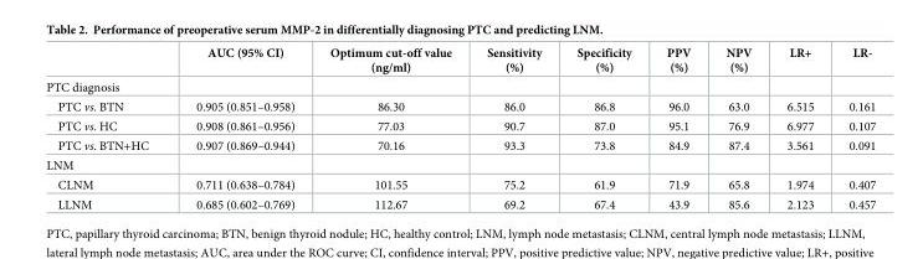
<table><thead><tr><td></td><td>AUC (95% CI)</td><td>Optimum cut-off value (ng/ml)</td><td>Sensitivity (%)</td><td>Specificity (%)</td><td>PPV (%)</td><td>NPV (%)</td><td>LR+</td><td>LR-</td></tr></thead><tbody><tr><td colspan="9">PTC diagnosis</td></tr><tr><td>PTC vs. BTN</td><td>0.905 (0.851–0.958)</td><td>86.30</td><td>86.0</td><td>86.8</td><td>96.0</td><td>63.0</td><td>6.515</td><td>0.161</td></tr><tr><td>PTC vs. HC</td><td>0.908 (0.861–0.956)</td><td>77.03</td><td>90.7</td><td>87.0</td><td>95.1</td><td>76.9</td><td>6.977</td><td>0.107</td></tr><tr><td>PTC vs. BTN+HC</td><td>0.907 (0.869–0.944)</td><td>70.16</td><td>93.3</td><td>73.8</td><td>84.9</td><td>87.4</td><td>3.561</td><td>0.091</td></tr><tr><td colspan="9">LNM</td></tr><tr><td>CLNM</td><td>0.711 (0.638–0.784)</td><td>101.55</td><td>75.2</td><td>61.9</td><td>71.9</td><td>65.8</td><td>1.974</td><td>0.407</td></tr><tr><td>LLNM</td><td>0.685 (0.602–0.769)</td><td>112.67</td><td>69.2</td><td>67.4</td><td>43.9</td><td>85.6</td><td>2.123</td><td>0.457</td></tr></tbody></table>